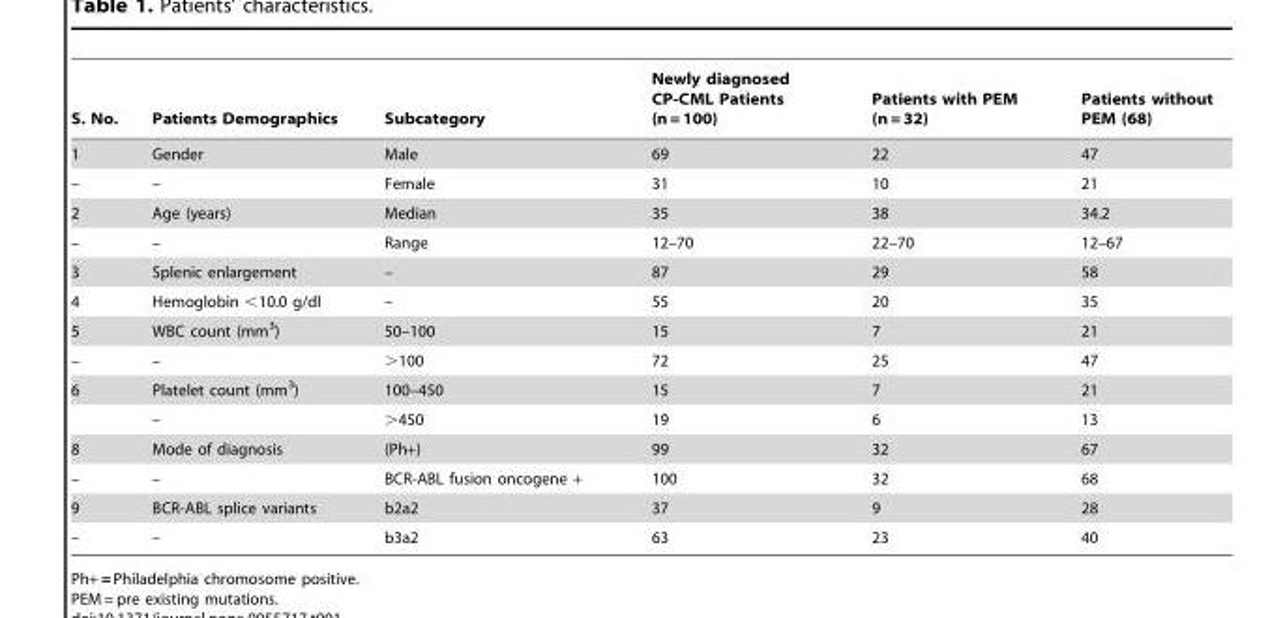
<table><thead><tr><td>S. No.</td><td>Patients Demographics</td><td>Subcategory</td><td>Newly diagnosed CP-CML Patients (n = 100)</td><td>Patients with PEM (n = 32)</td><td>Patients without PEM (68)</td></tr></thead><tbody><tr><td>1</td><td>Gender</td><td>Male</td><td>69</td><td>22</td><td>47</td></tr><tr><td>–</td><td>–</td><td>Female</td><td>31</td><td>10</td><td>21</td></tr><tr><td>2</td><td>Age (years)</td><td>Median</td><td>35</td><td>38</td><td>34.2</td></tr><tr><td>–</td><td>–</td><td>Range</td><td>12–70</td><td>22–70</td><td>12–67</td></tr><tr><td>3</td><td>Splenic enlargement</td><td>–</td><td>87</td><td>29</td><td>58</td></tr><tr><td>4</td><td>Hemoglobin &lt;10.0 g/dl</td><td>–</td><td>55</td><td>20</td><td>35</td></tr><tr><td>5</td><td>WBC count (mm3)</td><td>50–100</td><td>15</td><td>7</td><td>21</td></tr><tr><td>–</td><td>–</td><td>&gt;100</td><td>72</td><td>25</td><td>47</td></tr><tr><td rowspan="2">6</td><td>Platelet count (mm3)</td><td>100–450</td><td>15</td><td>7</td><td>21</td></tr><tr><td>–</td><td>&gt;450</td><td>19</td><td>6</td><td>13</td></tr><tr><td>8</td><td>Mode of diagnosis</td><td>(Ph+)</td><td>99</td><td>32</td><td>67</td></tr><tr><td>–</td><td>–</td><td>BCR-ABL fusion oncogene +</td><td>100</td><td>32</td><td>68</td></tr><tr><td>9</td><td>BCR-ABL splice variants</td><td>b2a2</td><td>37</td><td>9</td><td>28</td></tr><tr><td>–</td><td>–</td><td>b3a2</td><td>63</td><td>23</td><td>40</td></tr></tbody></table>